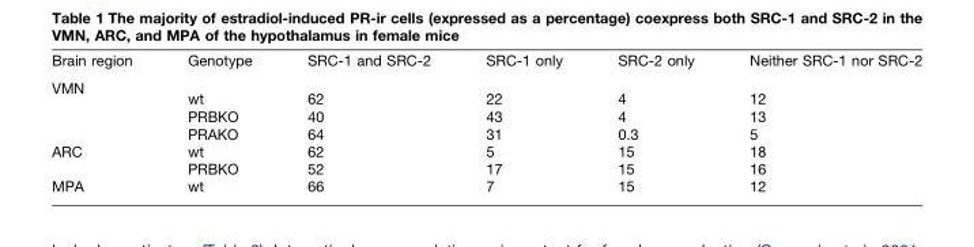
<table><thead><tr><td>Brain region</td><td>Genotype</td><td>SRC-1 and SRC-2</td><td>SRC-1 only</td><td>SRC-2 only</td><td>Neither SRC-1 nor SRC-2</td></tr></thead><tbody><tr><td rowspan="3">VMN</td><td>wt</td><td>62</td><td>22</td><td>4</td><td>12</td></tr><tr><td>PRBKO</td><td>40</td><td>43</td><td>4</td><td>13</td></tr><tr><td>PRAKO</td><td>64</td><td>31</td><td>0.3</td><td>5</td></tr><tr><td rowspan="2">ARC</td><td>wt</td><td>62</td><td>5</td><td>15</td><td>18</td></tr><tr><td>PRBKO</td><td>52</td><td>17</td><td>15</td><td>16</td></tr><tr><td>MPA</td><td>wt</td><td>66</td><td>7</td><td>15</td><td>12</td></tr></tbody></table>